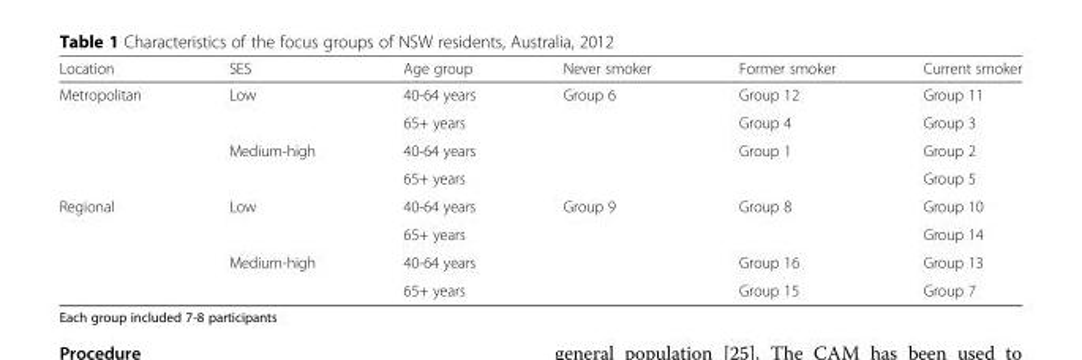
<table><thead><tr><td>Location</td><td>SES</td><td>Age group</td><td>Never smoker</td><td>Former smoker</td><td>Current smoker</td></tr></thead><tbody><tr><td rowspan="4">Metropolitan</td><td>Low</td><td>40-64 years</td><td rowspan="4">Group 6</td><td>Group 12</td><td>Group 11</td></tr><tr><td></td><td>65+ years</td><td>Group 4</td><td>Group 3</td></tr><tr><td>Medium-high</td><td>40-64 years</td><td>Group 1</td><td>Group 2</td></tr><tr><td></td><td>65+ years</td><td></td><td>Group 5</td></tr><tr><td rowspan="4">Regional</td><td>Low</td><td>40-64 years</td><td rowspan="4">Group 9</td><td>Group 8</td><td>Group 10</td></tr><tr><td></td><td>65+ years</td><td></td><td>Group 14</td></tr><tr><td>Medium-high</td><td>40-64 years</td><td>Group 16</td><td>Group 13</td></tr><tr><td></td><td>65+ years</td><td>Group 15</td><td>Group 7</td></tr></tbody></table>